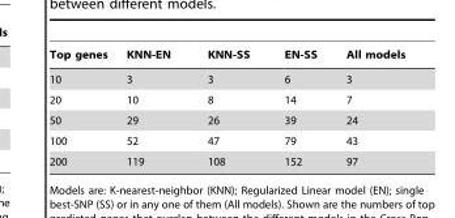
<table><thead><tr><td>Top genes</td><td>KNN-EN</td><td>KNN-SS</td><td>EN-SS</td><td>All models</td></tr></thead><tbody><tr><td>10</td><td>3</td><td>3</td><td>6</td><td>3</td></tr><tr><td>20</td><td>10</td><td>8</td><td>14</td><td>7</td></tr><tr><td>50</td><td>29</td><td>26</td><td>39</td><td>24</td></tr><tr><td>100</td><td>52</td><td>47</td><td>79</td><td>43</td></tr><tr><td>200</td><td>119</td><td>108</td><td>152</td><td>97</td></tr></tbody></table>